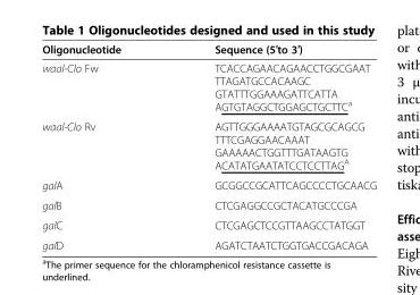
<table><thead><tr><td>Oligonucleotide</td><td>Sequence (5′to 3′)</td></tr></thead><tbody><tr><td>waal-Clo Fw</td><td>TCACCAGAACAGAACCTGGCGAAT TTAGATGCCACAAGC GTATTTGGAAAGATTCATTA AGTGTAGGCTGGAGCTGCTTC<sup>a</sup></td></tr><tr><td>waal-Clo Rv</td><td>AGTTGGGAAAATGTAGCGCAGCG TTTCGAGGAACAAAT GAAAAACTGGTTTGATAAGTG ACATATGAATATCCTCCTTAG<sup>A</sup></td></tr><tr><td>galA</td><td>GCGGCCGCATTCAGCCCCTGCAACG</td></tr><tr><td>galB</td><td>CTCGAGGCCGCTACATGCCCGA</td></tr><tr><td>galC</td><td>CTCGAGCTCCGTTAAGCCTATGGT</td></tr><tr><td>galD</td><td>AGATCTAATCTGGTGACCGACAGA</td></tr></tbody></table>